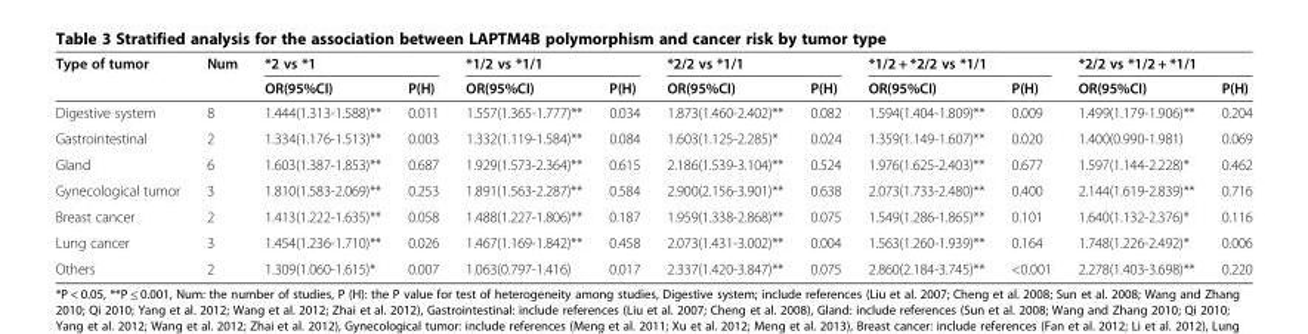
<table><thead><tr><td rowspan="2">Type of tumor</td><td rowspan="2">Num</td><td colspan="2">*2 vs *1</td><td colspan="2">*1/2 vs *1/1</td><td colspan="2">*2/2 vs *1/1</td><td colspan="2">*1/2 + *2/2 vs *1/1</td><td colspan="2">*2/2 vs *1/2 + *1/1</td></tr><tr><td>OR(95%CI)</td><td>P(H)</td><td>OR(95%CI)</td><td>P(H)</td><td>OR(95%CI)</td><td>P(H)</td><td>OR(95%CI)</td><td>P(H)</td><td>OR(95%CI)</td><td>P(H)</td></tr></thead><tbody><tr><td>Digestive system</td><td>8</td><td>1.444(1.313-1.588)**</td><td>0.011</td><td>1.557(1.365-1.777)**</td><td>0.034</td><td>1.873(1.460-2.402)**</td><td>0.082</td><td>1.594(1.404-1.809)**</td><td>0.009</td><td>1.499(1.179-1.906)**</td><td>0.204</td></tr><tr><td>Gastrointestinal</td><td>2</td><td>1.334(1.176-1.513)**</td><td>0.003</td><td>1.332(1.119-1.584)**</td><td>0.084</td><td>1.603(1.125-2.285)*</td><td>0.024</td><td>1.359(1.149-1.607)**</td><td>0.020</td><td>1.400(0.990-1.981)</td><td>0.069</td></tr><tr><td>Gland</td><td>6</td><td>1.603(1.387-1.853)**</td><td>0.687</td><td>1.929(1.573-2.364)**</td><td>0.615</td><td>2.186(1.539-3.104)**</td><td>0.524</td><td>1.976(1.625-2.403)**</td><td>0.677</td><td>1.597(1.144-2.228)*</td><td>0.462</td></tr><tr><td>Gynecological tumor</td><td>3</td><td>1.810(1.583-2.069)**</td><td>0.253</td><td>1.891(1.563-2.287)**</td><td>0.584</td><td>2.900(2.156-3.901)**</td><td>0.638</td><td>2.073(1.733-2.480)**</td><td>0.400</td><td>2.144(1.619-2.839)**</td><td>0.716</td></tr><tr><td>Breast cancer</td><td>2</td><td>1.413(1.222-1.635)**</td><td>0.058</td><td>1.488(1.227-1.806)**</td><td>0.187</td><td>1.959(1.338-2.868)**</td><td>0.075</td><td>1.549(1.286-1.865)**</td><td>0.101</td><td>1.640(1.132-2.376)*</td><td>0.116</td></tr><tr><td>Lung cancer</td><td>3</td><td>1.454(1.236-1.710)**</td><td>0.026</td><td>1.467(1.169-1.842)**</td><td>0.458</td><td>2.073(1.431-3.002)**</td><td>0.004</td><td>1.563(1.260-1.939)**</td><td>0.164</td><td>1.748(1.226-2.492)*</td><td>0.006</td></tr><tr><td>Others</td><td>2</td><td>1.309(1.060-1.615)*</td><td>0.007</td><td>1.063(0.797-1.416)</td><td>0.017</td><td>2.337(1.420-3.847)**</td><td>0.075</td><td>2.860(2.184-3.745)**</td><td>&lt;0.001</td><td>2.278(1.403-3.698)**</td><td>0.220</td></tr></tbody></table>